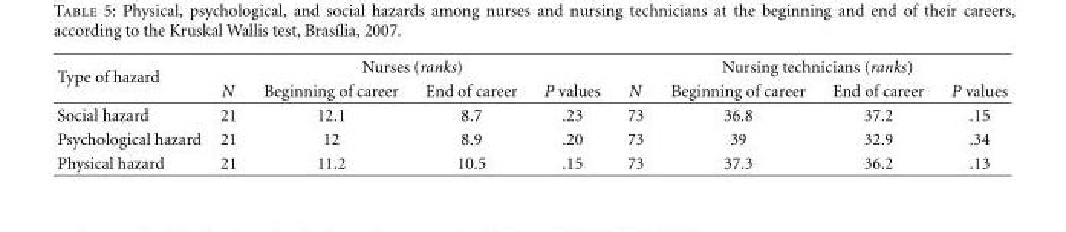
<table><thead><tr><td rowspan="2">Type of hazard</td><td colspan="4">Nurses (ranks)</td><td colspan="4">Nursing technicians (ranks)</td></tr><tr><td>N</td><td>Beginning of career</td><td>End of career</td><td>P values</td><td>N</td><td>Beginning of career</td><td>End of career</td><td>P values</td></tr></thead><tbody><tr><td>Social hazard</td><td>21</td><td>12.1</td><td>8.7</td><td>.23</td><td>73</td><td>36.8</td><td>37.2</td><td>.15</td></tr><tr><td>Psychological hazard</td><td>21</td><td>12</td><td>8.9</td><td>.20</td><td>73</td><td>39</td><td>32.9</td><td>.34</td></tr><tr><td>Physical hazard</td><td>21</td><td>11.2</td><td>10.5</td><td>.15</td><td>73</td><td>37.3</td><td>36.2</td><td>.13</td></tr></tbody></table>